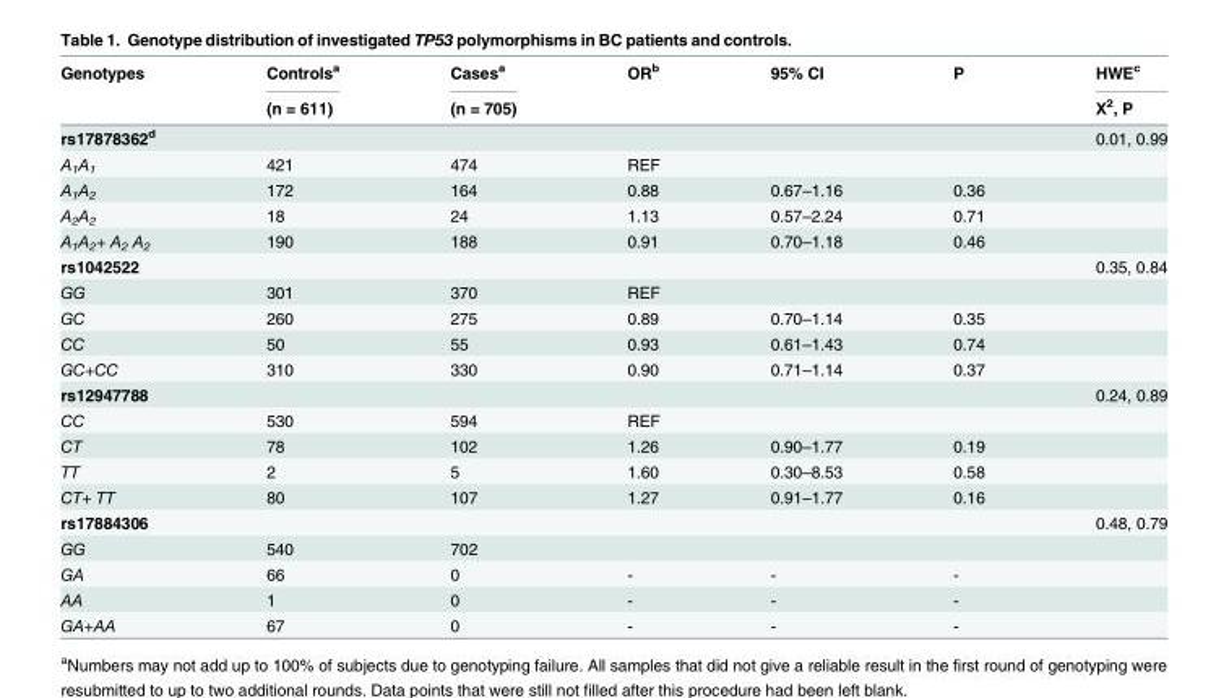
<table><thead><tr><td rowspan="2">Genotypes</td><td rowspan="2">Controls<sup>a</sup> (n = 611)</td><td rowspan="2">Cases<sup>a</sup> (n = 705)</td><td rowspan="2">OR<sup>b</sup></td><td rowspan="2">95% CI</td><td rowspan="2">P</td><td rowspan="2">HWE<sup>c</sup> Χ<sup>2</sup>, P</td></tr><tr></tr></thead><tbody><tr><td>rs17878362<sup>d</sup></td><td></td><td></td><td></td><td></td><td></td><td>0.01, 0.99</td></tr><tr><td>A<sub>1</sub>A<sub>1</sub></td><td>421</td><td>474</td><td>REF</td><td></td><td></td><td></td></tr><tr><td>A<sub>1</sub>A<sub>2</sub></td><td>172</td><td>164</td><td>0.88</td><td>0.67–1.16</td><td>0.36</td><td></td></tr><tr><td>A<sub>2</sub>A<sub>2</sub></td><td>18</td><td>24</td><td>1.13</td><td>0.57–2.24</td><td>0.71</td><td></td></tr><tr><td>A<sub>1</sub>A<sub>2</sub>+ A<sub>2</sub> A<sub>2</sub></td><td>190</td><td>188</td><td>0.91</td><td>0.70–1.18</td><td>0.46</td><td></td></tr><tr><td>rs1042522</td><td></td><td></td><td></td><td></td><td></td><td>0.35, 0.84</td></tr><tr><td>GG</td><td>301</td><td>370</td><td>REF</td><td></td><td></td><td></td></tr><tr><td>GC</td><td>260</td><td>275</td><td>0.89</td><td>0.70–1.14</td><td>0.35</td><td></td></tr><tr><td>CC</td><td>50</td><td>55</td><td>0.93</td><td>0.61–1.43</td><td>0.74</td><td></td></tr><tr><td>GC+CC</td><td>310</td><td>330</td><td>0.90</td><td>0.71–1.14</td><td>0.37</td><td></td></tr><tr><td>rs12947788</td><td></td><td></td><td></td><td></td><td></td><td>0.24, 0.89</td></tr><tr><td>CC</td><td>530</td><td>594</td><td>REF</td><td></td><td></td><td></td></tr><tr><td>CT</td><td>78</td><td>102</td><td>1.26</td><td>0.90–1.77</td><td>0.19</td><td></td></tr><tr><td>TT</td><td>2</td><td>5</td><td>1.60</td><td>0.30–8.53</td><td>0.58</td><td></td></tr><tr><td>CT+ TT</td><td>80</td><td>107</td><td>1.27</td><td>0.91–1.77</td><td>0.16</td><td></td></tr><tr><td>rs17884306</td><td></td><td></td><td></td><td></td><td></td><td>0.48, 0.79</td></tr><tr><td>GG</td><td>540</td><td>702</td><td></td><td></td><td></td><td></td></tr><tr><td>GA</td><td>66</td><td>0</td><td>-</td><td>-</td><td>-</td><td></td></tr><tr><td>AA</td><td>1</td><td>0</td><td>-</td><td>-</td><td>-</td><td></td></tr><tr><td>GA+AA</td><td>67</td><td>0</td><td>-</td><td>-</td><td>-</td><td></td></tr></tbody></table>